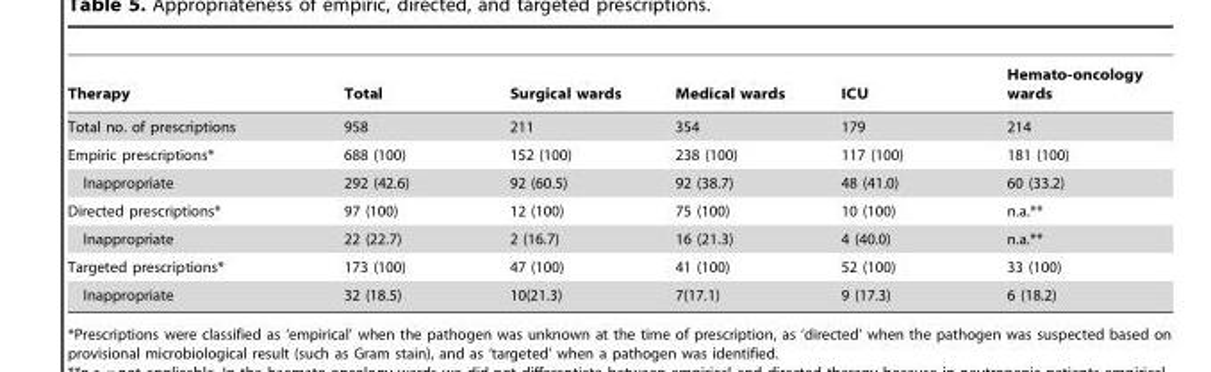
<table><thead><tr><td>Therapy</td><td>Total</td><td>Surgical wards</td><td>Medical wards</td><td>ICU</td><td>Hemato-oncology wards</td></tr></thead><tbody><tr><td>Total no. of prescriptions</td><td>958</td><td>211</td><td>354</td><td>179</td><td>214</td></tr><tr><td>Empiric prescriptions*</td><td>688 (100)</td><td>152 (100)</td><td>238 (100)</td><td>117 (100)</td><td>181 (100)</td></tr><tr><td>Inappropriate</td><td>292 (42.6)</td><td>92 (60.5)</td><td>92 (38.7)</td><td>48 (41.0)</td><td>60 (33.2)</td></tr><tr><td>Directed prescriptions*</td><td>97 (100)</td><td>12 (100)</td><td>75 (100)</td><td>10 (100)</td><td>n.a.**</td></tr><tr><td>Inappropriate</td><td>22 (22.7)</td><td>2 (16.7)</td><td>16 (21.3)</td><td>4 (40.0)</td><td>n.a.**</td></tr><tr><td>Targeted prescriptions*</td><td>173 (100)</td><td>47 (100)</td><td>41 (100)</td><td>52 (100)</td><td>33 (100)</td></tr><tr><td>Inappropriate</td><td>32 (18.5)</td><td>10(21.3)</td><td>7(17.1)</td><td>9 (17.3)</td><td>6 (18.2)</td></tr></tbody></table>